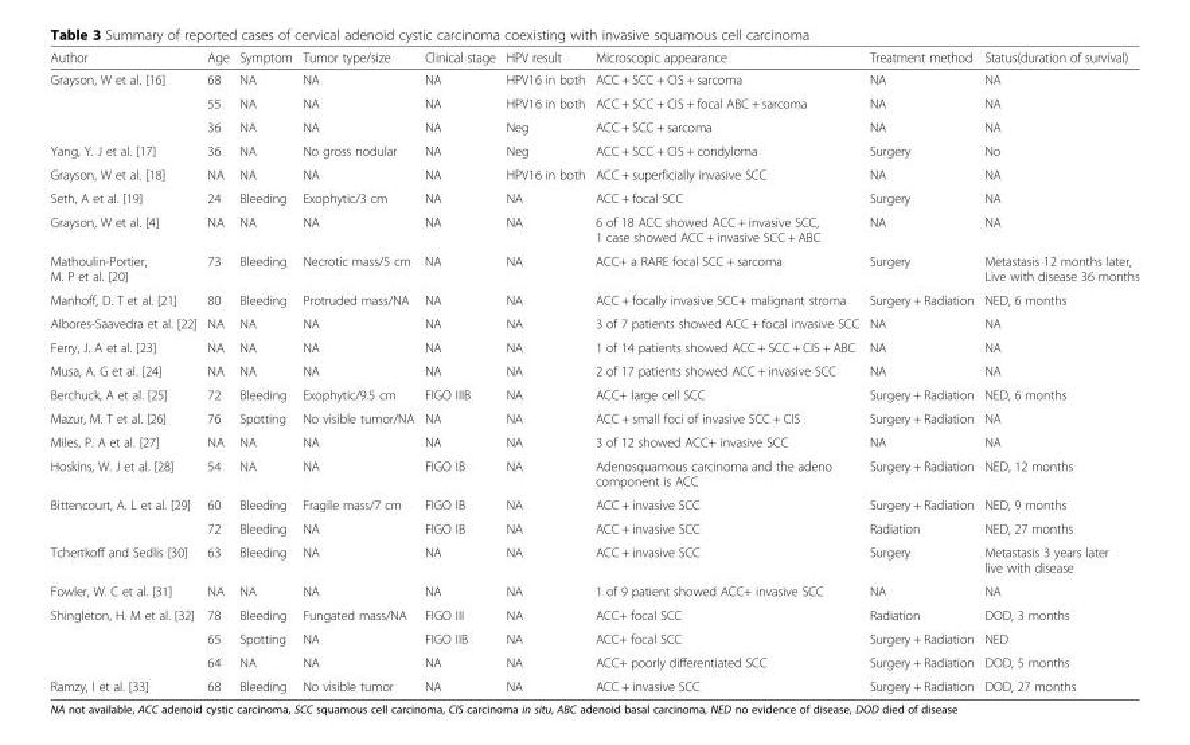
<table><thead><tr><td>Author</td><td>Age</td><td>Symptom</td><td>Tumor type/size</td><td>Clinical stage</td><td>HPV result</td><td>Microscopic appearance</td><td>Treatment method</td><td>Status(duration of survival)</td></tr></thead><tbody><tr><td rowspan="3">Grayson, W et al. [16]</td><td>68</td><td>NA</td><td>NA</td><td>NA</td><td>HPV16 in both</td><td>ACC + SCC + CIS + sarcoma</td><td>NA</td><td>NA</td></tr><tr><td>55</td><td>NA</td><td>NA</td><td>NA</td><td>HPV16 in both</td><td>ACC + SCC + CIS + focal ABC + sarcoma</td><td>NA</td><td>NA</td></tr><tr><td>36</td><td>NA</td><td>NA</td><td>NA</td><td>Neg</td><td>ACC + SCC + sarcoma</td><td>NA</td><td>NA</td></tr><tr><td>Yang, Y. J et al. [17]</td><td>36</td><td>NA</td><td>No gross nodular</td><td>NA</td><td>Neg</td><td>ACC + SCC + CIS + condyloma</td><td>Surgery</td><td>No</td></tr><tr><td>Grayson, W et al. [18]</td><td>NA</td><td>NA</td><td>NA</td><td>NA</td><td>HPV16 in both</td><td>ACC + superficially invasive SCC</td><td>NA</td><td>NA</td></tr><tr><td>Seth, A et al. [19]</td><td>24</td><td>Bleeding</td><td>Exophytic/3 cm</td><td>NA</td><td>NA</td><td>ACC + focal SCC</td><td>Surgery</td><td>NA</td></tr><tr><td>Grayson, W et al. [4]</td><td>NA</td><td>NA</td><td>NA</td><td>NA</td><td>NA</td><td>6 of 18 ACC showed ACC + invasive SCC, 1 case showed ACC + invasive SCC + ABC</td><td>NA</td><td>NA</td></tr><tr><td>Mathoulin-Portier, M. P et al. [20]</td><td>73</td><td>Bleeding</td><td>Necrotic mass/5 cm</td><td>NA</td><td>NA</td><td>ACC+ a RARE focal SCC + sarcoma</td><td>Surgery</td><td>Metastasis 12 months later, Live with disease 36 months</td></tr><tr><td>Manhoff, D. T et al. [21]</td><td>80</td><td>Bleeding</td><td>Protruded mass/NA</td><td>NA</td><td>NA</td><td>ACC + focally invasive SCC+ malignant stroma</td><td>Surgery + Radiation</td><td>NED, 6 months</td></tr><tr><td>Albores-Saavedra et al. [22]</td><td>NA</td><td>NA</td><td>NA</td><td>NA</td><td>NA</td><td>3 of 7 patients showed ACC + focal invasive SCC</td><td>NA</td><td>NA</td></tr><tr><td>Ferry, J. A et al. [23]</td><td>NA</td><td>NA</td><td>NA</td><td>NA</td><td>NA</td><td>1 of 14 patients showed ACC + SCC + CIS + ABC</td><td>NA</td><td>NA</td></tr><tr><td>Musa, A. G et al. [24]</td><td>NA</td><td>NA</td><td>NA</td><td>NA</td><td>NA</td><td>2 of 17 patients showed ACC + invasive SCC</td><td>NA</td><td>NA</td></tr><tr><td>Berchuck, A et al. [25]</td><td>72</td><td>Bleeding</td><td>Exophytic/9.5 cm</td><td>FIGO IIIB</td><td>NA</td><td>ACC+ large cell SCC</td><td>Surgery + Radiation</td><td>NED, 6 months</td></tr><tr><td>Mazur, M. T et al. [26]</td><td>76</td><td>Spotting</td><td>No visible tumor/NA</td><td>NA</td><td>NA</td><td>ACC + small foci of invasive SCC + CIS</td><td>Surgery + Radiation</td><td>NA</td></tr><tr><td>Miles, P. A et al. [27]</td><td>NA</td><td>NA</td><td>NA</td><td>NA</td><td>NA</td><td>3 of 12 showed ACC+ invasive SCC</td><td>NA</td><td>NA</td></tr><tr><td>Hoskins, W. J et al. [28]</td><td>54</td><td>NA</td><td>NA</td><td>FIGO IB</td><td>NA</td><td>Adenosquamous carcinoma and the adeno component is ACC</td><td>Surgery + Radiation</td><td>NED, 12 months</td></tr><tr><td rowspan="2">Bittencourt, A. L et al. [29]</td><td>60</td><td>Bleeding</td><td>Fragile mass/7 cm</td><td>FIGO IB</td><td>NA</td><td>ACC + invasive SCC</td><td>Surgery + Radiation</td><td>NED, 9 months</td></tr><tr><td>72</td><td>Bleeding</td><td>NA</td><td>FIGO IB</td><td>NA</td><td>ACC + invasive SCC</td><td>Radiation</td><td>NED, 27 months</td></tr><tr><td>Tchertkoff and Sedlis [30]</td><td>63</td><td>Bleeding</td><td>NA</td><td>NA</td><td>NA</td><td>ACC + invasive SCC</td><td>Surgery</td><td>Metastasis 3 years later live with disease</td></tr><tr><td>Fowler, W. C et al. [31]</td><td>NA</td><td>NA</td><td>NA</td><td>NA</td><td>NA</td><td>1 of 9 patient showed ACC+ invasive SCC</td><td>NA</td><td>NA</td></tr><tr><td rowspan="3">Shingleton, H. M et al. [32]</td><td>78</td><td>Bleeding</td><td>Fungated mass/NA</td><td>FIGO III</td><td>NA</td><td>ACC+ focal SCC</td><td>Radiation</td><td>DOD, 3 months</td></tr><tr><td>65</td><td>Spotting</td><td>NA</td><td>FIGO IIB</td><td>NA</td><td>ACC+ focal SCC</td><td>Surgery + Radiation</td><td>NED</td></tr><tr><td>64</td><td>NA</td><td>NA</td><td>NA</td><td>NA</td><td>ACC+ poorly differentiated SCC</td><td>Surgery + Radiation</td><td>DOD, 5 months</td></tr><tr><td>Ramzy, I et al. [33]</td><td>68</td><td>Bleeding</td><td>No visible tumor</td><td>NA</td><td>NA</td><td>ACC + invasive SCC</td><td>Surgery + Radiation</td><td>DOD, 27 months</td></tr></tbody></table>